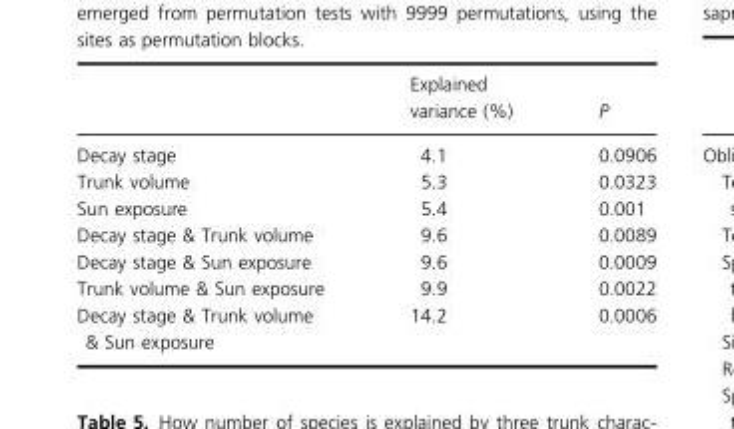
<table><thead><tr><td></td><td>Explained variance (%)</td><td>P</td></tr></thead><tbody><tr><td>Decay stage</td><td>4.1</td><td>0.0906</td></tr><tr><td>Trunk volume</td><td>5.3</td><td>0.0323</td></tr><tr><td>Sun exposure</td><td>5.4</td><td>0.001</td></tr><tr><td>Decay stage &amp; Trunk volume</td><td>9.6</td><td>0.0089</td></tr><tr><td>Decay stage &amp; Sun exposure</td><td>9.6</td><td>0.0009</td></tr><tr><td>Trunk volume &amp; Sun exposure</td><td>9.9</td><td>0.0022</td></tr><tr><td>Decay stage &amp; Trunk volume &amp; Sun exposure</td><td>14.2</td><td>0.0006</td></tr></tbody></table>